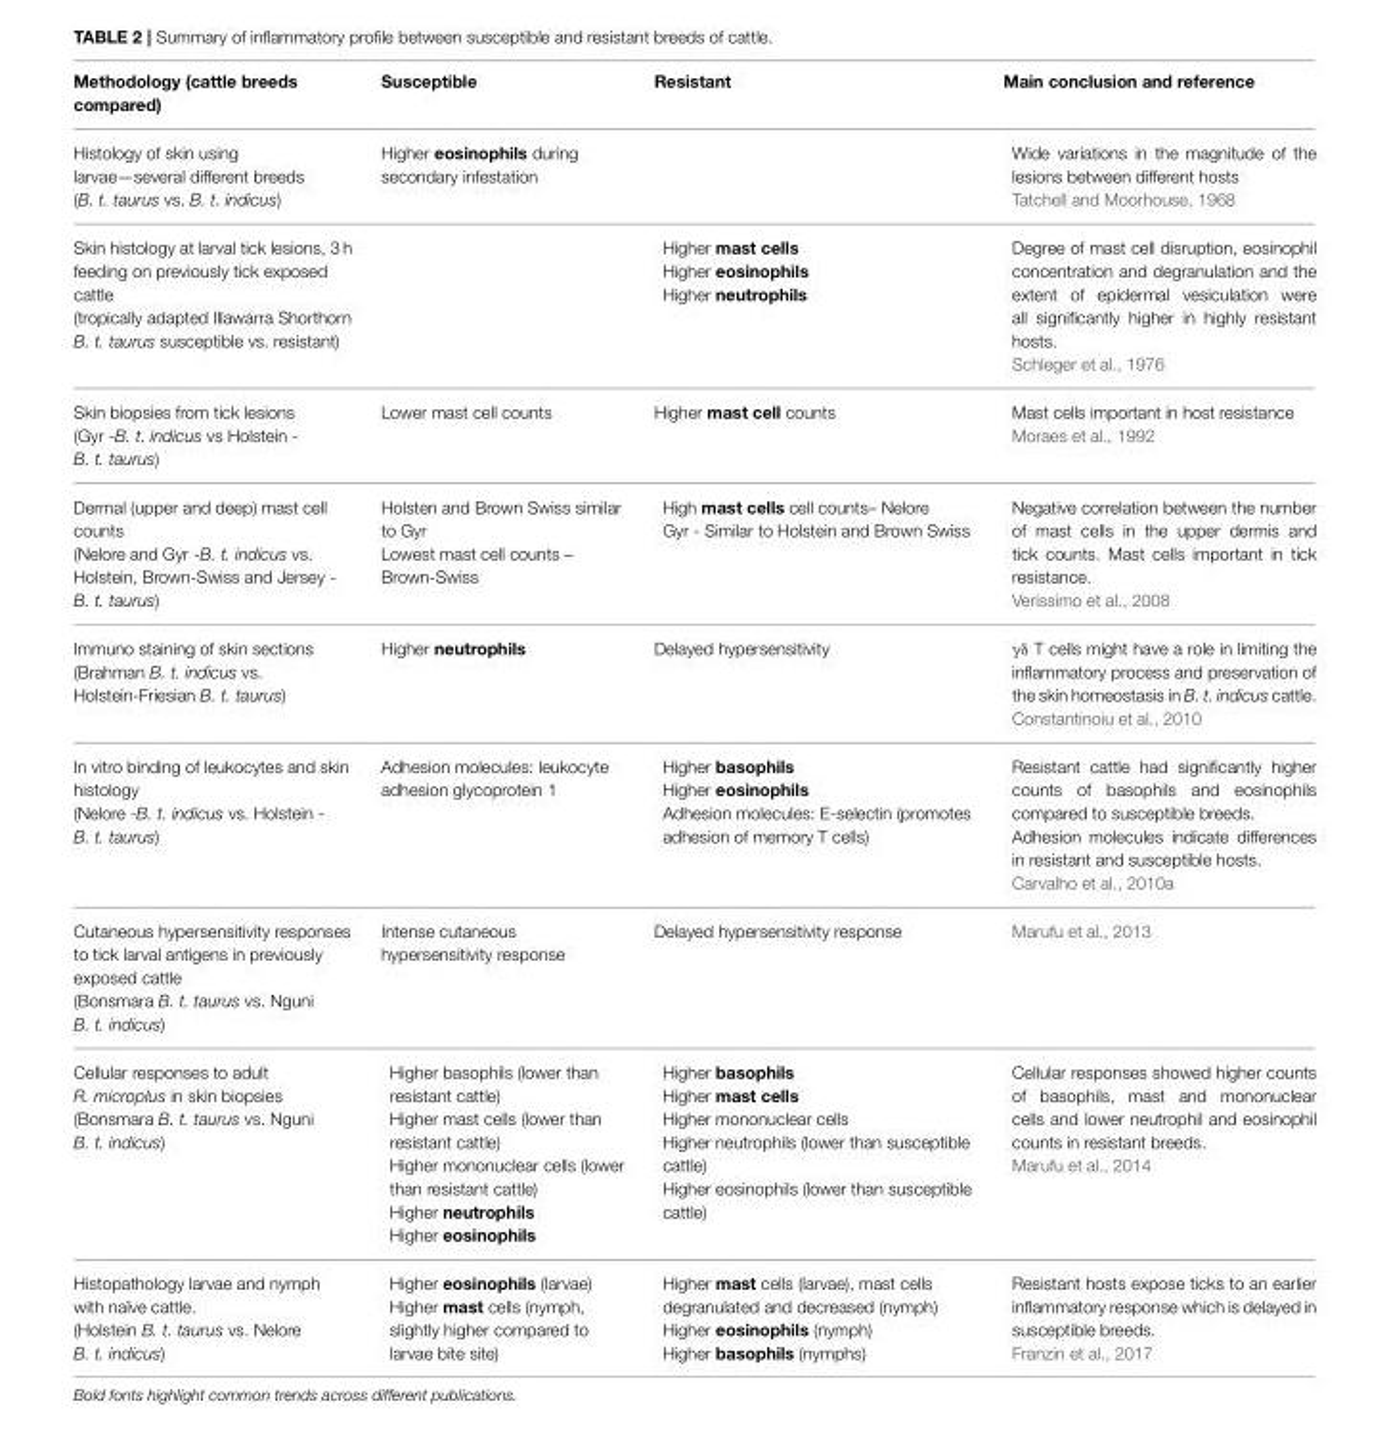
<table><thead><tr><td>Methodology (cattle breeds compared)</td><td>Susceptible</td><td>Resistant</td><td>Main conclusion and reference</td></tr></thead><tbody><tr><td>Histology of skin using larvae—several different breeds (B. t. taurus vs. B. t. indicus)</td><td>Higher eosinophils during secondary infestation</td><td></td><td>Wide variations in the magnitude of the lesions between different hosts Tatchell and Moorhouse, 1968</td></tr><tr><td>Skin histology at larval tick lesions, 3 h feeding on previously tick exposed cattle (tropically adapted Illawarra Shorthorn B. t. taurus susceptible vs. resistant)</td><td></td><td>Higher mast cells Higher eosinophils Higher neutrophils</td><td>Degree of mast cell disruption, eosinophil concentration and degranulation and the extent of epidermal vesiculation were all significantly higher in highly resistant hosts. Schleger et al., 1976</td></tr><tr><td>Skin biopsies from tick lesions (Gyr -B. t. indicus vs Holstein - B. t. taurus)</td><td>Lower mast cell counts</td><td>Higher mast cell counts</td><td>Mast cells important in host resistance Moraes et al., 1992</td></tr><tr><td>Dermal (upper and deep) mast cell counts (Nelore and Gyr -B. t. indicus vs. Holstein, Brown-Swiss and Jersey - B. t. taurus)</td><td>Holsten and Brown Swiss similar to Gyr Lowest mast cell counts – Brown-Swiss</td><td>High mast cells cell counts– Nelore Gyr - Similar to Holstein and Brown Swiss</td><td>Negative correlation between the number of mast cells in the upper dermis and tick counts. Mast cells important in tick resistance. Veríssimo et al., 2008</td></tr><tr><td>Immuno staining of skin sections (Brahman B. t. indicus vs. Holstein-Friesian B. t. taurus)</td><td>Higher neutrophils</td><td>Delayed hypersensitivity</td><td>γδ T cells might have a role in limiting the inflammatory process and preservation of the skin homeostasis in B. t. indicus cattle. Constantinoiu et al., 2010</td></tr><tr><td>In vitro binding of leukocytes and skin histology (Nelore -B. t. indicus vs. Holstein - B. t. taurus)</td><td>Adhesion molecules: leukocyte adhesion glycoprotein 1</td><td>Higher basophils Higher eosinophils Adhesion molecules: E-selectin (promotes adhesion of memory T cells)</td><td>Resistant cattle had significantly higher counts of basophils and eosinophils compared to susceptible breeds. Adhesion molecules indicate differences in resistant and susceptible hosts. Carvalho et al., 2010a</td></tr><tr><td>Cutaneous hypersensitivity responses to tick larval antigens in previously exposed cattle (Bonsmara B. t. taurus vs. Nguni B. t. indicus)</td><td>Intense cutaneous hypersensitivity response</td><td>Delayed hypersensitivity response</td><td>Marufu et al., 2013</td></tr><tr><td>Cellular responses to adult R. microplus in skin biopsies (Bonsmara B. t. taurus vs. Nguni B. t. indicus)</td><td>Higher basophils (lower than resistant cattle) Higher mast cells (lower than resistant cattle) Higher mononuclear cells (lower than resistant cattle) Higher neutrophils Higher eosinophils</td><td>Higher basophils Higher mast cells Higher mononuclear cells Higher neutrophils (lower than susceptible cattle) Higher eosinophils (lower than susceptible cattle)</td><td>Cellular responses showed higher counts of basophils, mast and mononuclear cells and lower neutrophil and eosinophil counts in resistant breeds. Marufu et al., 2014</td></tr><tr><td>Histopathology larvae and nymph with naïve cattle. (Holstein B. t. taurus vs. Nelore B. t. indicus)</td><td>Higher eosinophils (larvae) Higher mast cells (nymph, slightly higher compared to larvae bite site)</td><td>Higher mast cells (larvae), mast cells degranulated and decreased (nymph) Higher eosinophils (nymph) Higher basophils (nymphs)</td><td>Resistant hosts expose ticks to an earlier inflammatory response which is delayed in susceptible breeds. Franzin et al., 2017</td></tr></tbody></table>